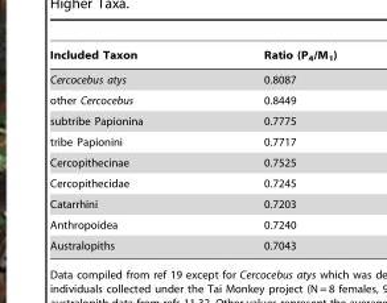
<table><thead><tr><td>Included Taxon</td><td>Ratio (P<sub>4</sub>/M<sub>1</sub>)</td></tr></thead><tbody><tr><td>Cercocebus atys</td><td>0.8087</td></tr><tr><td>other Cercocebus</td><td>0.8449</td></tr><tr><td>subtribe Papionina</td><td>0.7775</td></tr><tr><td>tribe Papionini</td><td>0.7717</td></tr><tr><td>Cercopithecinae</td><td>0.7525</td></tr><tr><td>Cercopithecidae</td><td>0.7245</td></tr><tr><td>Catarrhini</td><td>0.7203</td></tr><tr><td>Anthropoidea</td><td>0.7240</td></tr><tr><td>Australopiths</td><td>0.7043</td></tr></tbody></table>